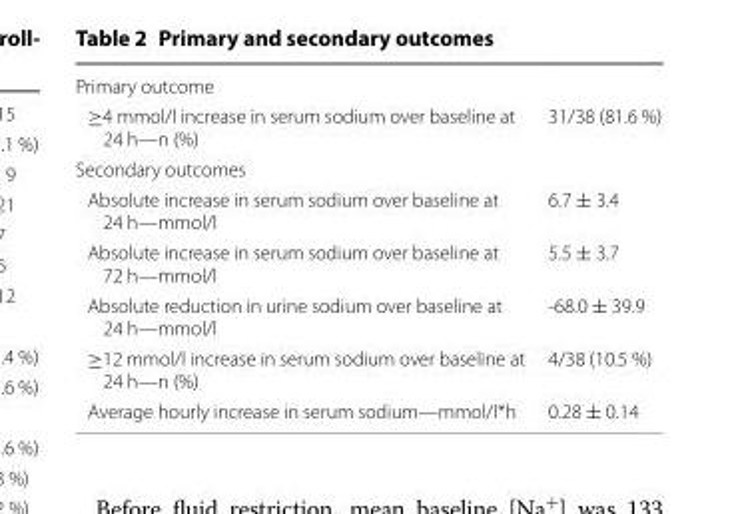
<table><tbody><tr><td colspan="2">Primary outcome</td></tr><tr><td>≥4 mmol/l increase in serum sodium over baseline at 24 h—n (%)</td><td>31/38 (81.6 %)</td></tr><tr><td colspan="2">Secondary outcomes</td></tr><tr><td>Absolute increase in serum sodium over baseline at 24 h—mmol/l</td><td>6.7 ± 3.4</td></tr><tr><td>Absolute increase in serum sodium over baseline at 72 h—mmol/l</td><td>5.5 ± 3.7</td></tr><tr><td>Absolute reduction in urine sodium over baseline at 24 h—mmol/l</td><td>-68.0 ± 39.9</td></tr><tr><td>≥12 mmol/l increase in serum sodium over baseline at 24 h—n (%)</td><td>4/38 (10.5 %)</td></tr><tr><td>Average hourly increase in serum sodium—mmol/l*h</td><td>0.28 ± 0.14</td></tr></tbody></table>